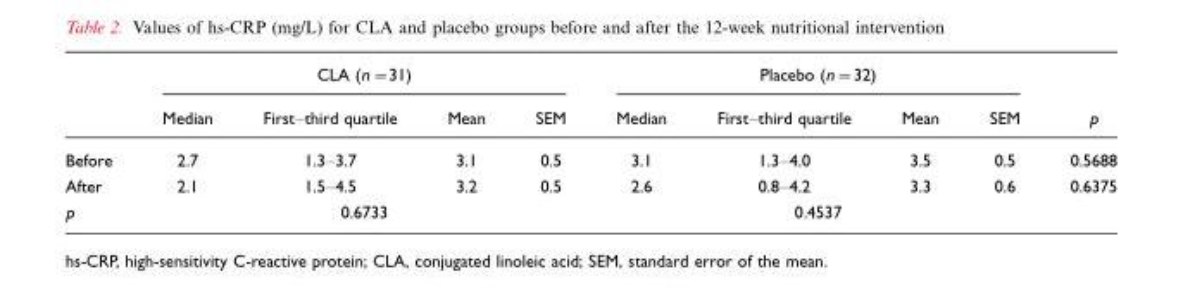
<table><thead><tr><td rowspan="2"></td><td colspan="4">CLA (n=31)</td><td colspan="4">Placebo (n=32)</td><td rowspan="2">p</td></tr><tr><td>Median</td><td>First–third quartile</td><td>Mean</td><td>SEM</td><td>Median</td><td>First–third quartile</td><td>Mean</td><td>SEM</td></tr></thead><tbody><tr><td>Before</td><td>2.7</td><td>1.3–3.7</td><td>3.1</td><td>0.5</td><td>3.1</td><td>1.3–4.0</td><td>3.5</td><td>0.5</td><td>0.5688</td></tr><tr><td>After</td><td>2.1</td><td>1.5–4.5</td><td>3.2</td><td>0.5</td><td>2.6</td><td>0.8–4.2</td><td>3.3</td><td>0.6</td><td>0.6375</td></tr><tr><td>p</td><td colspan="4">0.6733</td><td colspan="4">0.4537</td><td></td></tr></tbody></table>